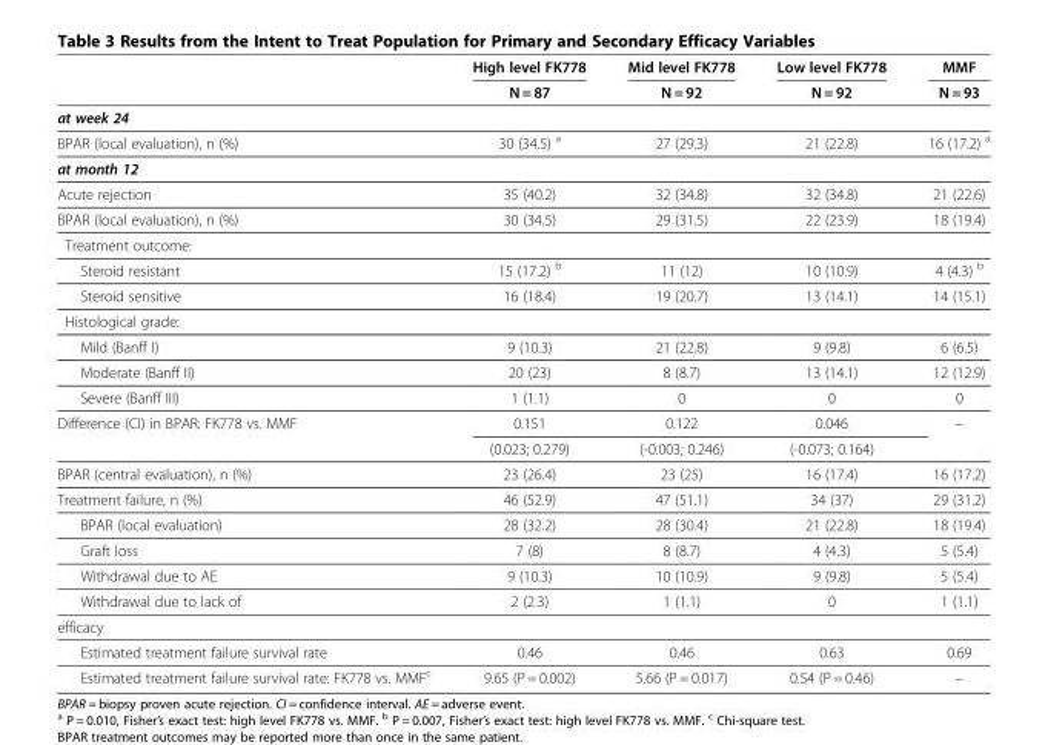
<table><thead><tr><td rowspan="2"></td><td rowspan="2">High level FK778 N = 87</td><td rowspan="2">Mid level FK778 N = 92</td><td rowspan="2">Low level FK778 N = 92</td><td rowspan="2">MMF N = 93</td></tr><tr></tr></thead><tbody><tr><td colspan="5">at week 24</td></tr><tr><td>BPAR (local evaluation), n (%)</td><td>30 (34.5) <sup>a</sup></td><td>27 (29.3)</td><td>21 (22.8)</td><td>16 (17.2) <sup>a</sup></td></tr><tr><td colspan="5">at month 12</td></tr><tr><td>Acute rejection</td><td>35 (40.2)</td><td>32 (34.8)</td><td>32 (34.8)</td><td>21 (22.6)</td></tr><tr><td>BPAR (local evaluation), n (%)</td><td>30 (34.5)</td><td>29 (31.5)</td><td>22 (23.9)</td><td>18 (19.4)</td></tr><tr><td colspan="5">Treatment outcome:</td></tr><tr><td>Steroid resistant</td><td>15 (17.2) <sup>b</sup></td><td>11 (12)</td><td>10 (10.9)</td><td>4 (4.3) <sup>b</sup></td></tr><tr><td>Steroid sensitive</td><td>16 (18.4)</td><td>19 (20.7)</td><td>13 (14.1)</td><td>14 (15.1)</td></tr><tr><td colspan="5">Histological grade:</td></tr><tr><td>Mild (Banff I)</td><td>9 (10.3)</td><td>21 (22.8)</td><td>9 (9.8)</td><td>6 (6.5)</td></tr><tr><td>Moderate (Banff II)</td><td>20 (23)</td><td>8 (8.7)</td><td>13 (14.1)</td><td>12 (12.9)</td></tr><tr><td>Severe (Banff III)</td><td>1 (1.1)</td><td>0</td><td>0</td><td>0</td></tr><tr><td rowspan="2">Difference (CI) in BPAR: FK778 vs. MMF</td><td>0.151</td><td>0.122</td><td>0.046</td><td rowspan="2">–</td></tr><tr><td>(0.023; 0.279)</td><td>(-0.003; 0.246)</td><td>(-0.073; 0.164)</td></tr><tr><td>BPAR (central evaluation), n (%)</td><td>23 (26.4)</td><td>23 (25)</td><td>16 (17.4)</td><td>16 (17.2)</td></tr><tr><td>Treatment failure, n (%)</td><td>46 (52.9)</td><td>47 (51.1)</td><td>34 (37)</td><td>29 (31.2)</td></tr><tr><td>BPAR (local evaluation)</td><td>28 (32.2)</td><td>28 (30.4)</td><td>21 (22.8)</td><td>18 (19.4)</td></tr><tr><td>Graft loss</td><td>7 (8)</td><td>8 (8.7)</td><td>4 (4.3)</td><td>5 (5.4)</td></tr><tr><td>Withdrawal due to AE</td><td>9 (10.3)</td><td>10 (10.9)</td><td>9 (9.8)</td><td>5 (5.4)</td></tr><tr><td>Withdrawal due to lack of</td><td>2 (2.3)</td><td>1 (1.1)</td><td>0</td><td>1 (1.1)</td></tr><tr><td colspan="5">efficacy</td></tr><tr><td>Estimated treatment failure survival rate</td><td>0.46</td><td>0.46</td><td>0.63</td><td>0.69</td></tr><tr><td>Estimated treatment failure survival rate: FK778 vs. MMF<sup>c</sup></td><td>9.65 (P = 0.002)</td><td>5.66 (P = 0.017)</td><td>0.54 (P = 0.46)</td><td>–</td></tr></tbody></table>